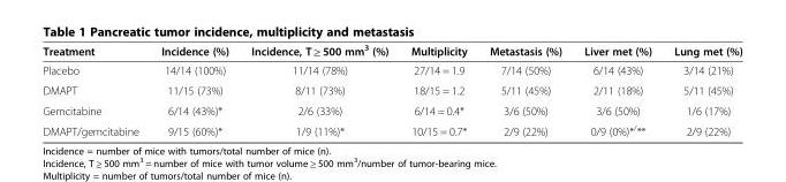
<table><thead><tr><td>Treatment</td><td>Incidence (%)</td><td>Incidence, T ≥ 500 mm<sup>3</sup> (%)</td><td>Multiplicity</td><td>Metastasis (%)</td><td>Liver met (%)</td><td>Lung met (%)</td></tr></thead><tbody><tr><td>Placebo</td><td>14/14 (100%)</td><td>11/14 (78%)</td><td>27/14 = 1.9</td><td>7/14 (50%)</td><td>6/14 (43%)</td><td>3/14 (21%)</td></tr><tr><td>DMAPT</td><td>11/15 (73%)</td><td>8/11 (73%)</td><td>18/15 = 1.2</td><td>5/11 (45%)</td><td>2/11 (18%)</td><td>5/11 (45%)</td></tr><tr><td>Gemcitabine</td><td>6/14 (43%)*</td><td>2/6 (33%)</td><td>6/14 = 0.4*</td><td>3/6 (50%)</td><td>3/6 (50%)</td><td>1/6 (17%)</td></tr><tr><td>DMAPT/gemcitabine</td><td>9/15 (60%)*</td><td>1/9 (11%)*</td><td>10/15 = 0.7*</td><td>2/9 (22%)</td><td>0/9 (0%)*<sup>/</sup>**</td><td>2/9 (22%)</td></tr></tbody></table>